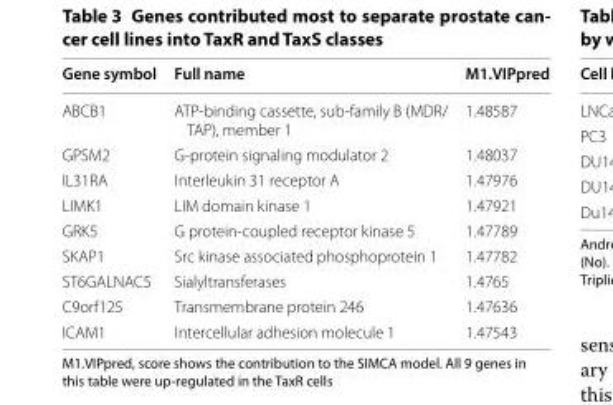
<table><thead><tr><td>Gene symbol</td><td>Full name</td><td>M1.VIPpred</td></tr></thead><tbody><tr><td>ABCB1</td><td>ATP-binding cassette, sub-family B (MDR/ TAP), member 1</td><td>1.48587</td></tr><tr><td>GPSM2</td><td>G-protein signaling modulator 2</td><td>1.48037</td></tr><tr><td>IL31RA</td><td>Interleukin 31 receptor A</td><td>1.47976</td></tr><tr><td>LIMK1</td><td>LIM domain kinase 1</td><td>1.47921</td></tr><tr><td>GRK5</td><td>G protein-coupled receptor kinase 5</td><td>1.47789</td></tr><tr><td>SKAP1</td><td>Src kinase associated phosphoprotein 1</td><td>1.47782</td></tr><tr><td>ST6GALNAC5</td><td>Sialyltransferases</td><td>1.4765</td></tr><tr><td>C9orf125</td><td>Transmembrane protein 246</td><td>1.47636</td></tr><tr><td>ICAM1</td><td>Intercellular adhesion molecule 1</td><td>1.47543</td></tr></tbody></table>